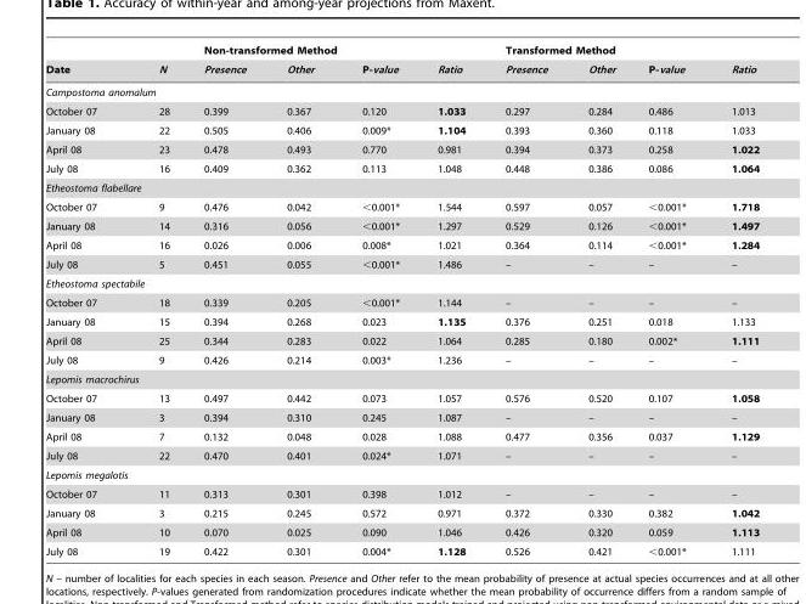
<table><thead><tr><td rowspan="2">Date</td><td rowspan="2">N</td><td colspan="4">Non-transformed Method</td><td colspan="4">Transformed Method</td></tr><tr><td>Presence</td><td>Other</td><td>P-value</td><td>Ratio</td><td>Presence</td><td>Other</td><td>P-value</td><td>Ratio</td></tr></thead><tbody><tr><td colspan="10">Campostoma anomalum</td></tr><tr><td>October 07</td><td>28</td><td>0.399</td><td>0.367</td><td>0.120</td><td>1.033</td><td>0.297</td><td>0.284</td><td>0.486</td><td>1.013</td></tr><tr><td>January 08</td><td>22</td><td>0.505</td><td>0.406</td><td>0.009*</td><td>1.104</td><td>0.393</td><td>0.360</td><td>0.118</td><td>1.033</td></tr><tr><td>April 08</td><td>23</td><td>0.478</td><td>0.493</td><td>0.770</td><td>0.981</td><td>0.394</td><td>0.373</td><td>0.258</td><td>1.022</td></tr><tr><td>July 08</td><td>16</td><td>0.409</td><td>0.362</td><td>0.113</td><td>1.048</td><td>0.448</td><td>0.386</td><td>0.086</td><td>1.064</td></tr><tr><td colspan="10">Etheostoma flabellare</td></tr><tr><td>October 07</td><td>9</td><td>0.476</td><td>0.042</td><td>&lt;0.001*</td><td>1.544</td><td>0.597</td><td>0.057</td><td>&lt;0.001*</td><td>1.718</td></tr><tr><td>January 08</td><td>14</td><td>0.316</td><td>0.056</td><td>&lt;0.001*</td><td>1.297</td><td>0.529</td><td>0.126</td><td>&lt;0.001*</td><td>1.497</td></tr><tr><td>April 08</td><td>16</td><td>0.026</td><td>0.006</td><td>0.008*</td><td>1.021</td><td>0.364</td><td>0.114</td><td>&lt;0.001*</td><td>1.284</td></tr><tr><td>July 08</td><td>5</td><td>0.451</td><td>0.055</td><td>&lt;0.001*</td><td>1.486</td><td>–</td><td>–</td><td>–</td><td>–</td></tr><tr><td colspan="10">Etheostoma spectabile</td></tr><tr><td>October 07</td><td>18</td><td>0.339</td><td>0.205</td><td>&lt;0.001*</td><td>1.144</td><td>–</td><td>–</td><td>–</td><td>–</td></tr><tr><td>January 08</td><td>15</td><td>0.394</td><td>0.268</td><td>0.023</td><td>1.135</td><td>0.376</td><td>0.251</td><td>0.018</td><td>1.133</td></tr><tr><td>April 08</td><td>25</td><td>0.344</td><td>0.283</td><td>0.022</td><td>1.064</td><td>0.285</td><td>0.180</td><td>0.002*</td><td>1.111</td></tr><tr><td>July 08</td><td>9</td><td>0.426</td><td>0.214</td><td>0.003*</td><td>1.236</td><td>–</td><td>–</td><td>–</td><td>–</td></tr><tr><td colspan="10">Lepomis macrochirus</td></tr><tr><td>October 07</td><td>13</td><td>0.497</td><td>0.442</td><td>0.073</td><td>1.057</td><td>0.576</td><td>0.520</td><td>0.107</td><td>1.058</td></tr><tr><td>January 08</td><td>3</td><td>0.394</td><td>0.310</td><td>0.245</td><td>1.087</td><td>–</td><td>–</td><td>–</td><td>–</td></tr><tr><td>April 08</td><td>7</td><td>0.132</td><td>0.048</td><td>0.028</td><td>1.088</td><td>0.477</td><td>0.356</td><td>0.037</td><td>1.129</td></tr><tr><td>July 08</td><td>22</td><td>0.470</td><td>0.401</td><td>0.024*</td><td>1.071</td><td>–</td><td>–</td><td>–</td><td>–</td></tr><tr><td colspan="10">Lepomis megalotis</td></tr><tr><td>October 07</td><td>11</td><td>0.313</td><td>0.301</td><td>0.398</td><td>1.012</td><td>–</td><td>–</td><td>–</td><td>–</td></tr><tr><td>January 08</td><td>3</td><td>0.215</td><td>0.245</td><td>0.572</td><td>0.971</td><td>0.372</td><td>0.330</td><td>0.382</td><td>1.042</td></tr><tr><td>April 08</td><td>10</td><td>0.070</td><td>0.025</td><td>0.090</td><td>1.046</td><td>0.426</td><td>0.320</td><td>0.059</td><td>1.113</td></tr><tr><td>July 08</td><td>19</td><td>0.422</td><td>0.301</td><td>0.004*</td><td>1.128</td><td>0.526</td><td>0.421</td><td>&lt;0.001*</td><td>1.111</td></tr></tbody></table>